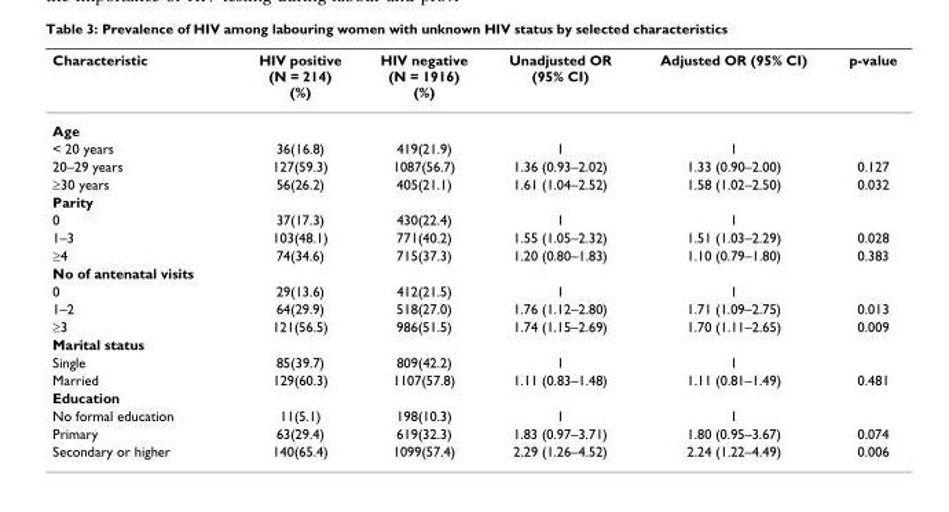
<table><thead><tr><td>Characteristic</td><td>HIV positive (N = 214) (%)</td><td>HIV negative (N = 1916) (%)</td><td>Unadjusted OR (95% CI)</td><td>Adjusted OR (95% CI)</td><td>p-value</td></tr></thead><tbody><tr><td colspan="6">Age</td></tr><tr><td>&lt; 20 years</td><td>36(16.8)</td><td>419(21.9)</td><td>1</td><td>1</td><td></td></tr><tr><td>20–29 years</td><td>127(59.3)</td><td>1087(56.7)</td><td>1.36 (0.93–2.02)</td><td>1.33 (0.90–2.00)</td><td>0.127</td></tr><tr><td>≥30 years</td><td>56(26.2)</td><td>405(21.1)</td><td>1.61 (1.04–2.52)</td><td>1.58 (1.02–2.50)</td><td>0.032</td></tr><tr><td colspan="6">Parity</td></tr><tr><td>0</td><td>37(17.3)</td><td>430(22.4)</td><td>1</td><td>1</td><td></td></tr><tr><td>1–3</td><td>103(48.1)</td><td>771(40.2)</td><td>1.55 (1.05–2.32)</td><td>1.51 (1.03–2.29)</td><td>0.028</td></tr><tr><td>≥4</td><td>74(34.6)</td><td>715(37.3)</td><td>1.20 (0.80–1.83)</td><td>1.10 (0.79–1.80)</td><td>0.383</td></tr><tr><td colspan="6">No of antenatal visits</td></tr><tr><td>0</td><td>29(13.6)</td><td>412(21.5)</td><td>1</td><td>1</td><td></td></tr><tr><td>1–2</td><td>64(29.9)</td><td>518(27.0)</td><td>1.76 (1.12–2.80)</td><td>1.71 (1.09–2.75)</td><td>0.013</td></tr><tr><td>≥3</td><td>121(56.5)</td><td>986(51.5)</td><td>1.74 (1.15–2.69)</td><td>1.70 (1.11–2.65)</td><td>0.009</td></tr><tr><td colspan="6">Marital status</td></tr><tr><td>Single</td><td>85(39.7)</td><td>809(42.2)</td><td>1</td><td>1</td><td></td></tr><tr><td>Married</td><td>129(60.3)</td><td>1107(57.8)</td><td>1.11 (0.83–1.48)</td><td>1.11 (0.81–1.49)</td><td>0.481</td></tr><tr><td colspan="6">Education</td></tr><tr><td>No formal education</td><td>11(5.1)</td><td>198(10.3)</td><td>1</td><td>1</td><td></td></tr><tr><td>Primary</td><td>63(29.4)</td><td>619(32.3)</td><td>1.83 (0.97–3.71)</td><td>1.80 (0.95–3.67)</td><td>0.074</td></tr><tr><td>Secondary or higher</td><td>140(65.4)</td><td>1099(57.4)</td><td>2.29 (1.26–4.52)</td><td>2.24 (1.22–4.49)</td><td>0.006</td></tr></tbody></table>